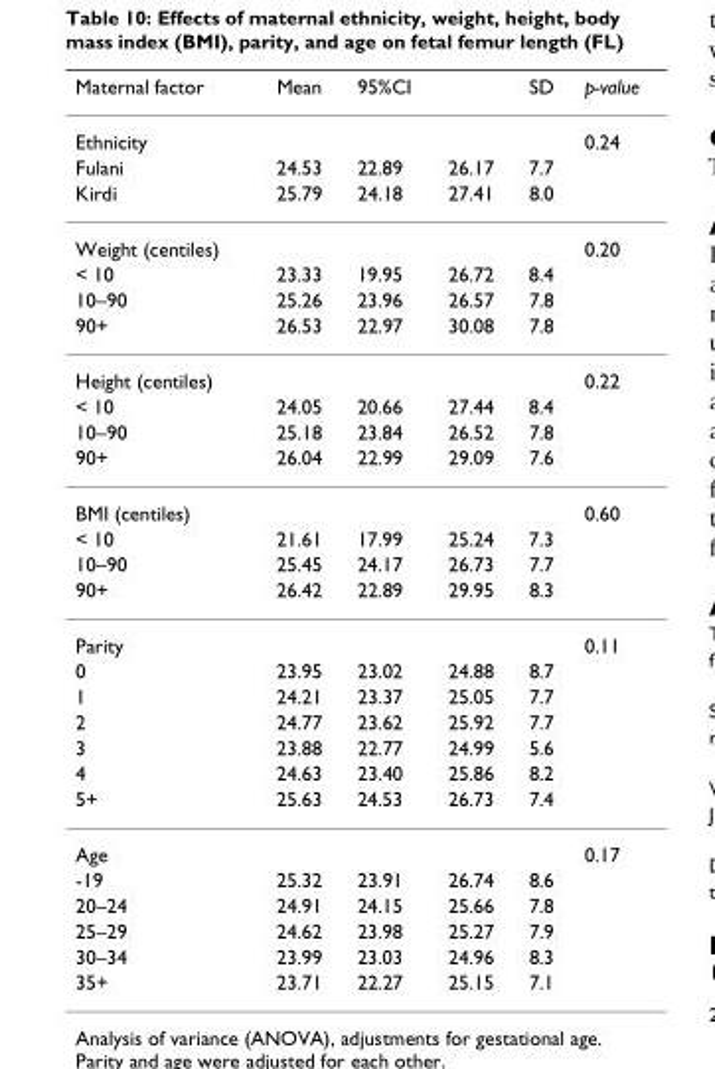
<table><thead><tr><td>Maternal factor</td><td>Mean</td><td>95%CI</td><td></td><td>SD</td><td>p-value</td></tr></thead><tbody><tr><td>Ethnicity</td><td></td><td></td><td></td><td></td><td>0.24</td></tr><tr><td>Fulani</td><td>24.53</td><td>22.89</td><td>26.17</td><td>7.7</td><td></td></tr><tr><td>Kirdi</td><td>25.79</td><td>24.18</td><td>27.41</td><td>8.0</td><td></td></tr><tr><td>Weight (centiles)</td><td></td><td></td><td></td><td></td><td>0.20</td></tr><tr><td>&lt; 10</td><td>23.33</td><td>19.95</td><td>26.72</td><td>8.4</td><td></td></tr><tr><td>10–90</td><td>25.26</td><td>23.96</td><td>26.57</td><td>7.8</td><td></td></tr><tr><td>90+</td><td>26.53</td><td>22.97</td><td>30.08</td><td>7.8</td><td></td></tr><tr><td>Height (centiles)</td><td></td><td></td><td></td><td></td><td>0.22</td></tr><tr><td>&lt; 10</td><td>24.05</td><td>20.66</td><td>27.44</td><td>8.4</td><td></td></tr><tr><td>10–90</td><td>25.18</td><td>23.84</td><td>26.52</td><td>7.8</td><td></td></tr><tr><td>90+</td><td>26.04</td><td>22.99</td><td>29.09</td><td>7.6</td><td></td></tr><tr><td>BMI (centiles)</td><td></td><td></td><td></td><td></td><td>0.60</td></tr><tr><td>&lt; 10</td><td>21.61</td><td>17.99</td><td>25.24</td><td>7.3</td><td></td></tr><tr><td>10–90</td><td>25.45</td><td>24.17</td><td>26.73</td><td>7.7</td><td></td></tr><tr><td>90+</td><td>26.42</td><td>22.89</td><td>29.95</td><td>8.3</td><td></td></tr><tr><td>Parity</td><td></td><td></td><td></td><td></td><td>0.11</td></tr><tr><td>0</td><td>23.95</td><td>23.02</td><td>24.88</td><td>8.7</td><td></td></tr><tr><td>1</td><td>24.21</td><td>23.37</td><td>25.05</td><td>7.7</td><td></td></tr><tr><td>2</td><td>24.77</td><td>23.62</td><td>25.92</td><td>7.7</td><td></td></tr><tr><td>3</td><td>23.88</td><td>22.77</td><td>24.99</td><td>5.6</td><td></td></tr><tr><td>4</td><td>24.63</td><td>23.40</td><td>25.86</td><td>8.2</td><td></td></tr><tr><td>5+</td><td>25.63</td><td>24.53</td><td>26.73</td><td>7.4</td><td></td></tr><tr><td>Age</td><td></td><td></td><td></td><td></td><td>0.17</td></tr><tr><td>-19</td><td>25.32</td><td>23.91</td><td>26.74</td><td>8.6</td><td></td></tr><tr><td>20–24</td><td>24.91</td><td>24.15</td><td>25.66</td><td>7.8</td><td></td></tr><tr><td>25–29</td><td>24.62</td><td>23.98</td><td>25.27</td><td>7.9</td><td></td></tr><tr><td>30–34</td><td>23.99</td><td>23.03</td><td>24.96</td><td>8.3</td><td></td></tr><tr><td>35+</td><td>23.71</td><td>22.27</td><td>25.15</td><td>7.1</td><td></td></tr></tbody></table>